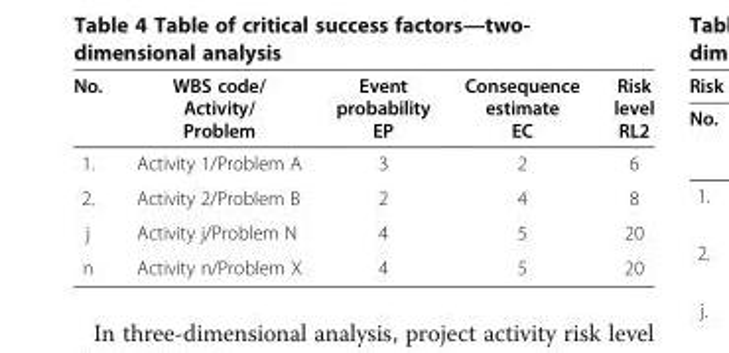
<table><thead><tr><td>No.</td><td>WBS code/ Activity/ Problem</td><td>Event probability EP</td><td>Consequence estimate EC</td><td>Risk level RL2</td></tr></thead><tbody><tr><td>1.</td><td>Activity 1/Problem A</td><td>3</td><td>2</td><td>6</td></tr><tr><td>2.</td><td>Activity 2/Problem B</td><td>2</td><td>4</td><td>8</td></tr><tr><td>j</td><td>Activity j/Problem N</td><td>4</td><td>5</td><td>20</td></tr><tr><td>n</td><td>Activity n/Problem X</td><td>4</td><td>5</td><td>20</td></tr></tbody></table>